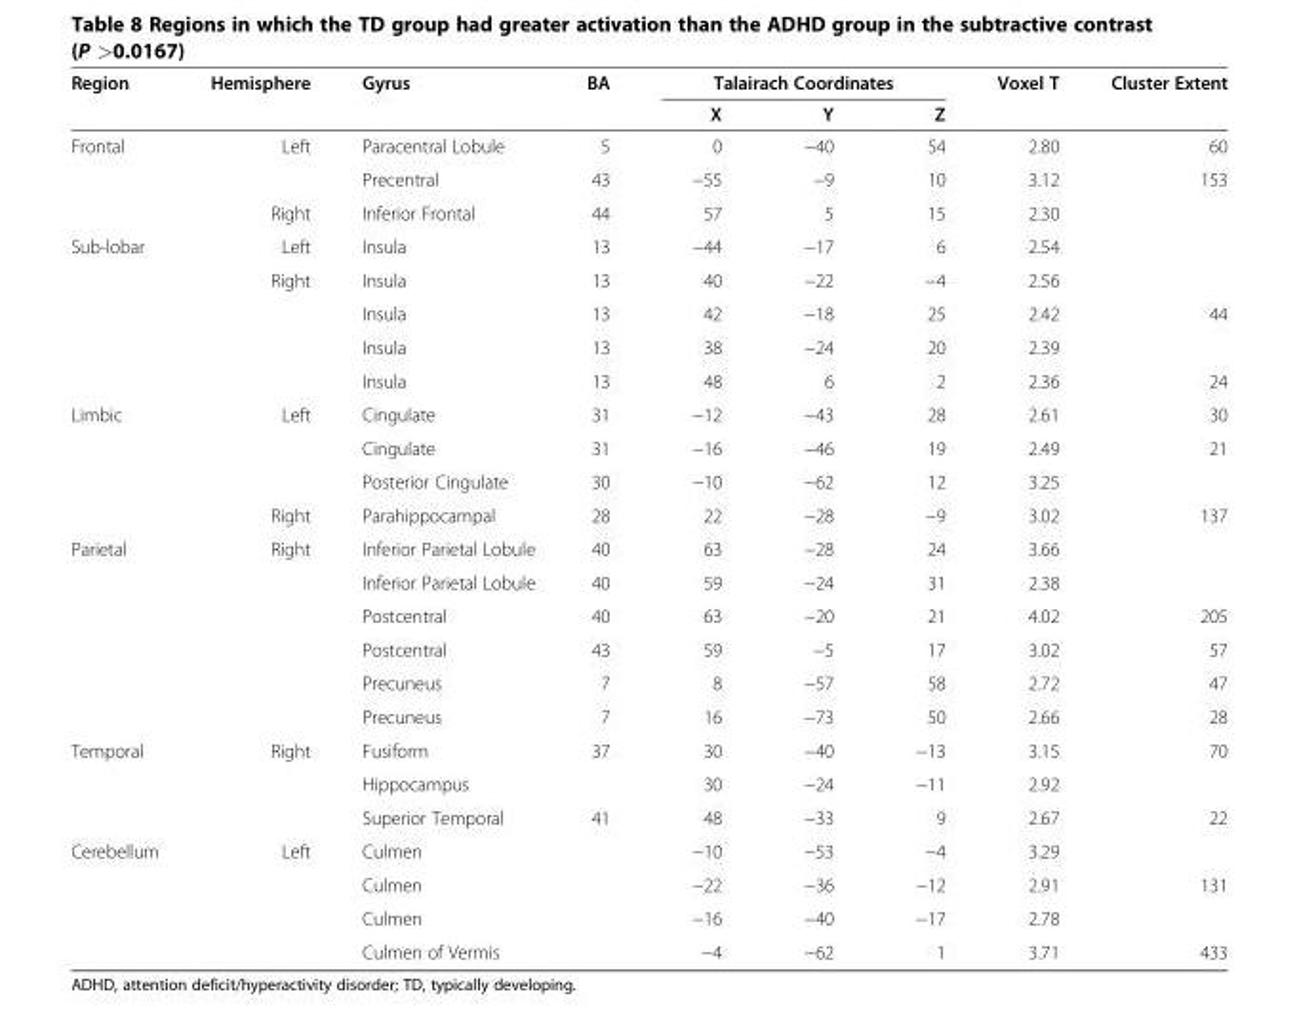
<table><thead><tr><td rowspan="2">Region</td><td rowspan="2">Hemisphere</td><td rowspan="2">Gyrus</td><td rowspan="2">BA</td><td colspan="3">Talairach Coordinates</td><td rowspan="2">Voxel T</td><td rowspan="2">Cluster Extent</td></tr><tr><td>X</td><td>Y</td><td>Z</td></tr></thead><tbody><tr><td rowspan="3">Frontal</td><td>Left</td><td>Paracentral Lobule</td><td>5</td><td>0</td><td>−40</td><td>54</td><td>2.80</td><td>60</td></tr><tr><td></td><td>Precentral</td><td>43</td><td>−55</td><td>−9</td><td>10</td><td>3.12</td><td>153</td></tr><tr><td>Right</td><td>Inferior Frontal</td><td>44</td><td>57</td><td>5</td><td>15</td><td>2.30</td><td></td></tr><tr><td rowspan="5">Sub-lobar</td><td>Left</td><td>Insula</td><td>13</td><td>−44</td><td>−17</td><td>6</td><td>2.54</td><td></td></tr><tr><td>Right</td><td>Insula</td><td>13</td><td>40</td><td>−22</td><td>−4</td><td>2.56</td><td></td></tr><tr><td></td><td>Insula</td><td>13</td><td>42</td><td>−18</td><td>25</td><td>2.42</td><td>44</td></tr><tr><td></td><td>Insula</td><td>13</td><td>38</td><td>−24</td><td>20</td><td>2.39</td><td></td></tr><tr><td></td><td>Insula</td><td>13</td><td>48</td><td>6</td><td>2</td><td>2.36</td><td>24</td></tr><tr><td rowspan="4">Limbic</td><td>Left</td><td>Cingulate</td><td>31</td><td>−12</td><td>−43</td><td>28</td><td>2.61</td><td>30</td></tr><tr><td></td><td>Cingulate</td><td>31</td><td>−16</td><td>−46</td><td>19</td><td>2.49</td><td>21</td></tr><tr><td></td><td>Posterior Cingulate</td><td>30</td><td>−10</td><td>−62</td><td>12</td><td>3.25</td><td></td></tr><tr><td>Right</td><td>Parahippocampal</td><td>28</td><td>22</td><td>−28</td><td>−9</td><td>3.02</td><td>137</td></tr><tr><td rowspan="6">Parietal</td><td>Right</td><td>Inferior Parietal Lobule</td><td>40</td><td>63</td><td>−28</td><td>24</td><td>3.66</td><td></td></tr><tr><td></td><td>Inferior Parietal Lobule</td><td>40</td><td>59</td><td>−24</td><td>31</td><td>2.38</td><td></td></tr><tr><td></td><td>Postcentral</td><td>40</td><td>63</td><td>−20</td><td>21</td><td>4.02</td><td>205</td></tr><tr><td></td><td>Postcentral</td><td>43</td><td>59</td><td>−5</td><td>17</td><td>3.02</td><td>57</td></tr><tr><td></td><td>Precuneus</td><td>7</td><td>8</td><td>−57</td><td>58</td><td>2.72</td><td>47</td></tr><tr><td></td><td>Precuneus</td><td>7</td><td>16</td><td>−73</td><td>50</td><td>2.66</td><td>28</td></tr><tr><td rowspan="3">Temporal</td><td>Right</td><td>Fusiform</td><td>37</td><td>30</td><td>−40</td><td>−13</td><td>3.15</td><td>70</td></tr><tr><td></td><td>Hippocampus</td><td></td><td>30</td><td>−24</td><td>−11</td><td>2.92</td><td></td></tr><tr><td></td><td>Superior Temporal</td><td>41</td><td>48</td><td>−33</td><td>9</td><td>2.67</td><td>22</td></tr><tr><td rowspan="4">Cerebellum</td><td>Left</td><td>Culmen</td><td></td><td>−10</td><td>−53</td><td>−4</td><td>3.29</td><td></td></tr><tr><td></td><td>Culmen</td><td></td><td>−22</td><td>−36</td><td>−12</td><td>2.91</td><td>131</td></tr><tr><td></td><td>Culmen</td><td></td><td>−16</td><td>−40</td><td>−17</td><td>2.78</td><td></td></tr><tr><td></td><td>Culmen of Vermis</td><td></td><td>−4</td><td>−62</td><td>1</td><td>3.71</td><td>433</td></tr></tbody></table>